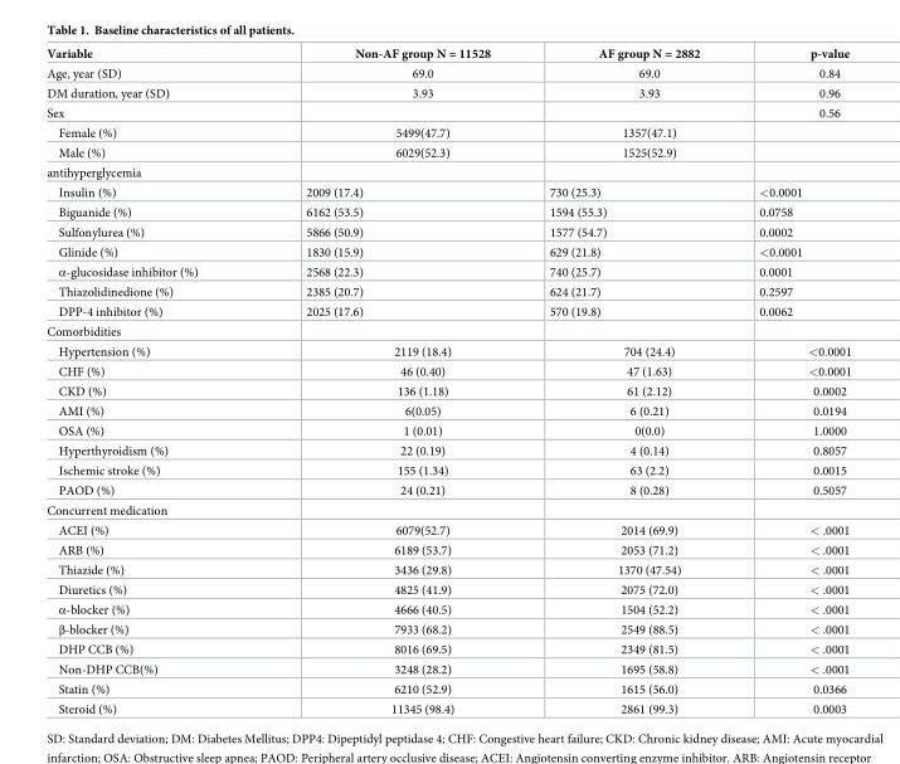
<table><thead><tr><td>Variable</td><td>Non-AF group N = 11528</td><td>AF group N = 2882</td><td>p-value</td></tr></thead><tbody><tr><td>Age, year (SD)</td><td>69.0</td><td>69.0</td><td>0.84</td></tr><tr><td>DM duration, year (SD)</td><td>3.93</td><td>3.93</td><td>0.96</td></tr><tr><td>Sex</td><td></td><td></td><td>0.56</td></tr><tr><td>Female (%)</td><td>5499(47.7)</td><td>1357(47.1)</td><td></td></tr><tr><td>Male (%)</td><td>6029(52.3)</td><td>1525(52.9)</td><td></td></tr><tr><td colspan="4">antihyperglycemia</td></tr><tr><td>Insulin (%)</td><td>2009 (17.4)</td><td>730 (25.3)</td><td>&lt;0.0001</td></tr><tr><td>Biguanide (%)</td><td>6162 (53.5)</td><td>1594 (55.3)</td><td>0.0758</td></tr><tr><td>Sulfonylurea (%)</td><td>5866 (50.9)</td><td>1577 (54.7)</td><td>0.0002</td></tr><tr><td>Glinide (%)</td><td>1830 (15.9)</td><td>629 (21.8)</td><td>&lt;0.0001</td></tr><tr><td>α-glucosidase inhibitor (%)</td><td>2568 (22.3)</td><td>740 (25.7)</td><td>0.0001</td></tr><tr><td>Thiazolidinedione (%)</td><td>2385 (20.7)</td><td>624 (21.7)</td><td>0.2597</td></tr><tr><td>DPP-4 inhibitor (%)</td><td>2025 (17.6)</td><td>570 (19.8)</td><td>0.0062</td></tr><tr><td colspan="4">Comorbidities</td></tr><tr><td>Hypertension (%)</td><td>2119 (18.4)</td><td>704 (24.4)</td><td>&lt;0.0001</td></tr><tr><td>CHF (%)</td><td>46 (0.40)</td><td>47 (1.63)</td><td>&lt;0.0001</td></tr><tr><td>CKD (%)</td><td>136 (1.18)</td><td>61 (2.12)</td><td>0.0002</td></tr><tr><td>AMI (%)</td><td>6(0.05)</td><td>6 (0.21)</td><td>0.0194</td></tr><tr><td>OSA (%)</td><td>1 (0.01)</td><td>0(0.0)</td><td>1.0000</td></tr><tr><td>Hyperthyroidism (%)</td><td>22 (0.19)</td><td>4 (0.14)</td><td>0.8057</td></tr><tr><td>Ischemic stroke (%)</td><td>155 (1.34)</td><td>63 (2.2)</td><td>0.0015</td></tr><tr><td>PAOD (%)</td><td>24 (0.21)</td><td>8 (0.28)</td><td>0.5057</td></tr><tr><td colspan="4">Concurrent medication</td></tr><tr><td>ACEI (%)</td><td>6079(52.7)</td><td>2014 (69.9)</td><td>&lt; .0001</td></tr><tr><td>ARB (%)</td><td>6189 (53.7)</td><td>2053 (71.2)</td><td>&lt; .0001</td></tr><tr><td>Thiazide (%)</td><td>3436 (29.8)</td><td>1370 (47.54)</td><td>&lt; .0001</td></tr><tr><td>Diuretics (%)</td><td>4825 (41.9)</td><td>2075 (72.0)</td><td>&lt; .0001</td></tr><tr><td>α-blocker (%)</td><td>4666 (40.5)</td><td>1504 (52.2)</td><td>&lt; .0001</td></tr><tr><td>β-blocker (%)</td><td>7933 (68.2)</td><td>2549 (88.5)</td><td>&lt; .0001</td></tr><tr><td>DHP CCB (%)</td><td>8016 (69.5)</td><td>2349 (81.5)</td><td>&lt; .0001</td></tr><tr><td>Non-DHP CCB(%)</td><td>3248 (28.2)</td><td>1695 (58.8)</td><td>&lt; .0001</td></tr><tr><td>Statin (%)</td><td>6210 (52.9)</td><td>1615 (56.0)</td><td>0.0366</td></tr><tr><td>Steroid (%)</td><td>11345 (98.4)</td><td>2861 (99.3)</td><td>0.0003</td></tr></tbody></table>